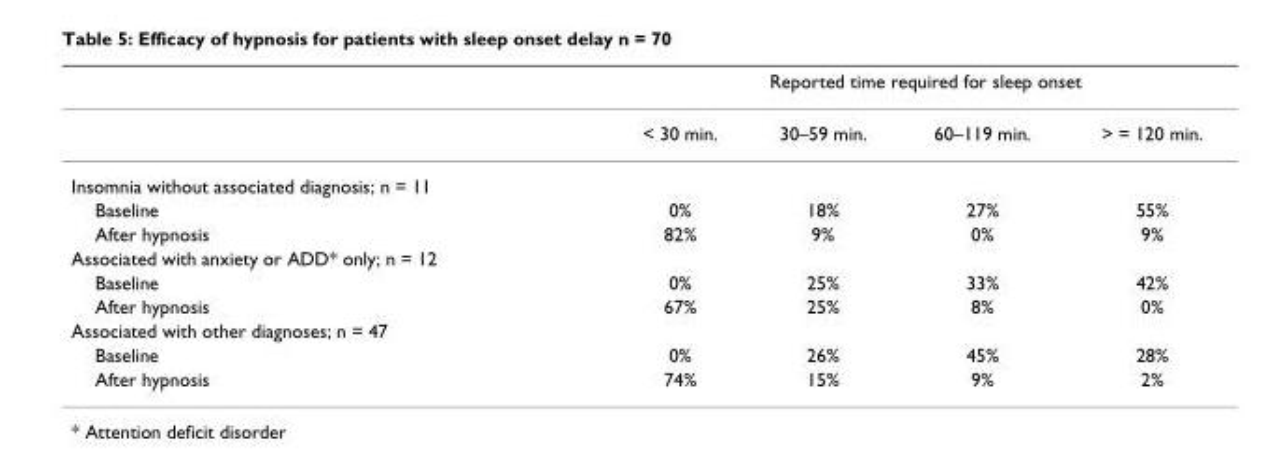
<table><thead><tr><td rowspan="2"></td><td colspan="4">Reported time required for sleep onset</td></tr><tr><td>&lt; 30 min.</td><td>30–59 min.</td><td>60–119 min.</td><td>&gt; = 120 min.</td></tr></thead><tbody><tr><td colspan="5">Insomnia without associated diagnosis; n = 11</td></tr><tr><td>Baseline</td><td>0%</td><td>18%</td><td>27%</td><td>55%</td></tr><tr><td>After hypnosis</td><td>82%</td><td>9%</td><td>0%</td><td>9%</td></tr><tr><td colspan="5">Associated with anxiety or ADD* only; n = 12</td></tr><tr><td>Baseline</td><td>0%</td><td>25%</td><td>33%</td><td>42%</td></tr><tr><td>After hypnosis</td><td>67%</td><td>25%</td><td>8%</td><td>0%</td></tr><tr><td colspan="5">Associated with other diagnoses; n = 47</td></tr><tr><td>Baseline</td><td>0%</td><td>26%</td><td>45%</td><td>28%</td></tr><tr><td>After hypnosis</td><td>74%</td><td>15%</td><td>9%</td><td>2%</td></tr></tbody></table>